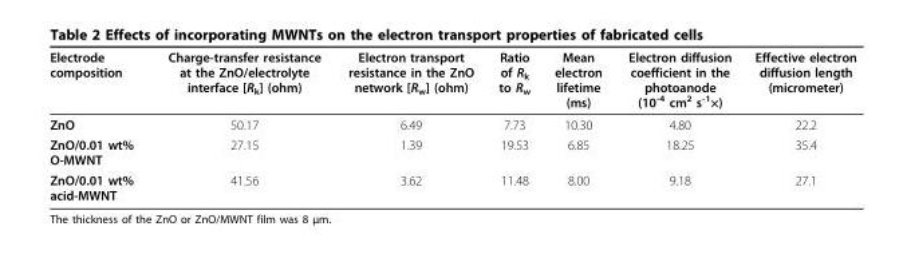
<table><thead><tr><td>Electrode composition</td><td>Charge-transfer resistance at the ZnO/electrolyte interface [R<sub>k</sub>] (ohm)</td><td>Electron transport resistance in the ZnO network [R<sub>w</sub>] (ohm)</td><td>Ratio of R<sub>k</sub> to R<sub>w</sub></td><td>Mean electron lifetime (ms)</td><td>Electron diffusion coefficient in the photoanode (10<sup>-4</sup> cm<sup>2</sup> s<sup>-1</sup>×)</td><td>Effective electron diffusion length (micrometer)</td></tr></thead><tbody><tr><td>ZnO</td><td>50.17</td><td>6.49</td><td>7.73</td><td>10.30</td><td>4.80</td><td>22.2</td></tr><tr><td>ZnO/0.01 wt% O-MWNT</td><td>27.15</td><td>1.39</td><td>19.53</td><td>6.85</td><td>18.25</td><td>35.4</td></tr><tr><td>ZnO/0.01 wt% acid-MWNT</td><td>41.56</td><td>3.62</td><td>11.48</td><td>8.00</td><td>9.18</td><td>27.1</td></tr></tbody></table>